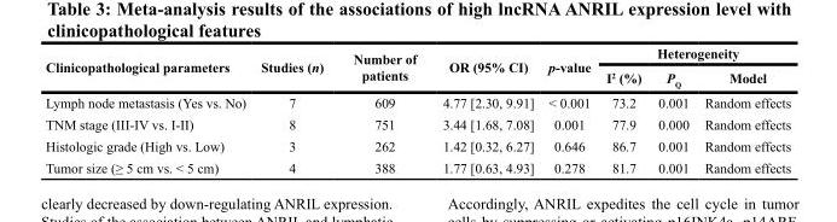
<table><thead><tr><td rowspan="2">Clinicopathological parameters</td><td rowspan="2">Studies (n)</td><td rowspan="2">Number of patients</td><td rowspan="2">OR (95% CI)</td><td rowspan="2">p-value</td><td colspan="3">Heterogeneity</td></tr><tr><td>I<sup>2</sup> (%)</td><td>P<sub>Q</sub></td><td>Model</td></tr></thead><tbody><tr><td>Lymph node metastasis (Yes vs. No)</td><td>7</td><td>609</td><td>4.77 [2.30, 9.91]</td><td>&lt; 0.001</td><td>73.2</td><td>0.001</td><td>Random effects</td></tr><tr><td>TNM stage (III-IV vs. I-II)</td><td>8</td><td>751</td><td>3.44 [1.68, 7.08]</td><td>0.001</td><td>77.9</td><td>0.000</td><td>Random effects</td></tr><tr><td>Histologic grade (High vs. Low)</td><td>3</td><td>262</td><td>1.42 [0.32, 6.27]</td><td>0.646</td><td>86.7</td><td>0.001</td><td>Random effects</td></tr><tr><td>Tumor size (≥ 5 cm vs. &lt; 5 cm)</td><td>4</td><td>388</td><td>1.77 [0.63, 4.93]</td><td>0.278</td><td>81.7</td><td>0.001</td><td>Random effects</td></tr></tbody></table>